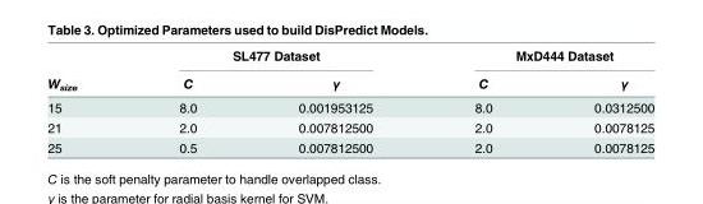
<table><thead><tr><td rowspan="2">W<sub>size</sub></td><td colspan="2">SL477 Dataset</td><td colspan="2">MxD444 Dataset</td></tr><tr><td>C</td><td>γ</td><td>C</td><td>γ</td></tr></thead><tbody><tr><td>15</td><td>8.0</td><td>0.001953125</td><td>8.0</td><td>0.0312500</td></tr><tr><td>21</td><td>2.0</td><td>0.007812500</td><td>2.0</td><td>0.0078125</td></tr><tr><td>25</td><td>0.5</td><td>0.007812500</td><td>2.0</td><td>0.0078125</td></tr></tbody></table>